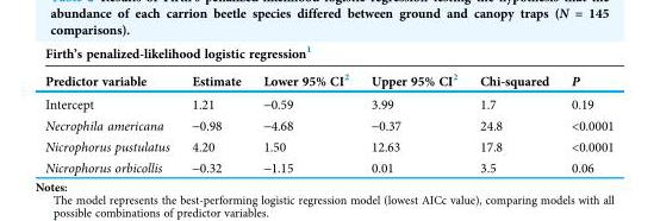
<table><thead><tr><td colspan="6">Firth’s penalized-likelihood logistic regression<sup>1</sup></td></tr><tr><td>Predictor variable</td><td>Estimate</td><td>Lower 95% CI<sup>2</sup></td><td>Upper 95% CI<sup>2</sup></td><td>Chi-squared</td><td>P</td></tr></thead><tbody><tr><td>Intercept</td><td>1.21</td><td>-0.59</td><td>3.99</td><td>1.7</td><td>0.19</td></tr><tr><td>Necrophila americana</td><td>-0.98</td><td>-4.68</td><td>-0.37</td><td>24.8</td><td>&lt;0.0001</td></tr><tr><td>Nicrophorus pustulatus</td><td>4.20</td><td>1.50</td><td>12.63</td><td>17.8</td><td>&lt;0.0001</td></tr><tr><td>Nicrophorus orbicollis</td><td>-0.32</td><td>-1.15</td><td>0.01</td><td>3.5</td><td>0.06</td></tr></tbody></table>